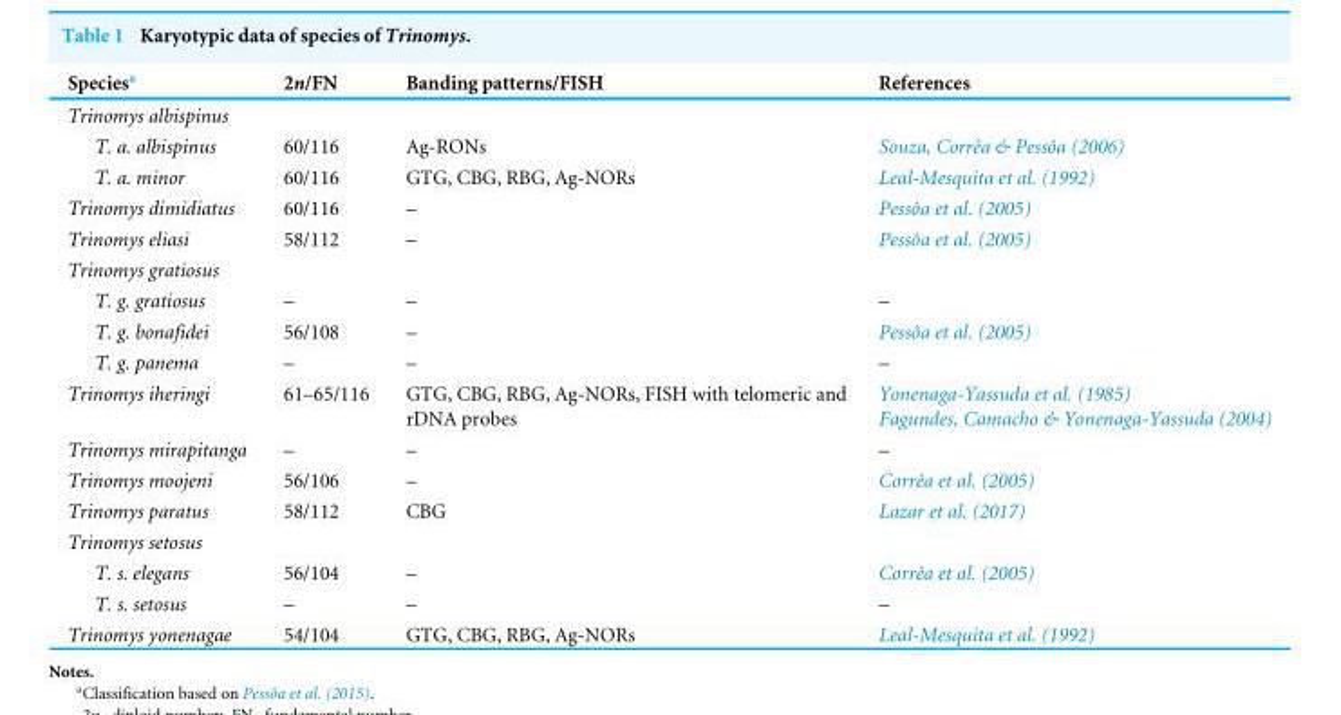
<table><thead><tr><td>Species<sup>a</sup></td><td>2n/FN</td><td>Banding patterns/FISH</td><td>References</td></tr></thead><tbody><tr><td colspan="4">Trinomys albispinus</td></tr><tr><td>T. a. albispinus</td><td>60/116</td><td>Ag-RONs</td><td>Souza, Corrêa &amp; Pessôa (2006)</td></tr><tr><td>T. a. minor</td><td>60/116</td><td>GTG, CBG, RBG, Ag-NORs</td><td>Leal-Mesquita et al. (1992)</td></tr><tr><td>Trinomys dimidiatus</td><td>60/116</td><td>–</td><td>Pessôa et al. (2005)</td></tr><tr><td>Trinomys eliasi</td><td>58/112</td><td>–</td><td>Pessôa et al. (2005)</td></tr><tr><td colspan="4">Trinomys gratiosus</td></tr><tr><td>T. g. gratiosus</td><td>–</td><td>–</td><td>–</td></tr><tr><td>T. g. bonafidei</td><td>56/108</td><td>–</td><td>Pessôa et al. (2005)</td></tr><tr><td>T. g. panema</td><td>–</td><td>–</td><td>–</td></tr><tr><td>Trinomys iheringi</td><td>61–65/116</td><td>GTG, CBG, RBG, Ag-NORs, FISH with telomeric and rDNA probes</td><td>Yonenaga-Yassuda et al. (1985) Fagundes, Camacho &amp; Yonenaga-Yassuda (2004)</td></tr><tr><td>Trinomys mirapitanga</td><td>–</td><td>–</td><td>–</td></tr><tr><td>Trinomys moojeni</td><td>56/106</td><td>–</td><td>Corrêa et al. (2005)</td></tr><tr><td>Trinomys paratus</td><td>58/112</td><td>CBG</td><td>Lazar et al. (2017)</td></tr><tr><td colspan="4">Trinomys setosus</td></tr><tr><td>T. s. elegans</td><td>56/104</td><td>–</td><td>Corrêa et al. (2005)</td></tr><tr><td>T. s. setosus</td><td>–</td><td>–</td><td>–</td></tr><tr><td>Trinomys yonenagae</td><td>54/104</td><td>GTG, CBG, RBG, Ag-NORs</td><td>Leal-Mesquita et al. (1992)</td></tr></tbody></table>